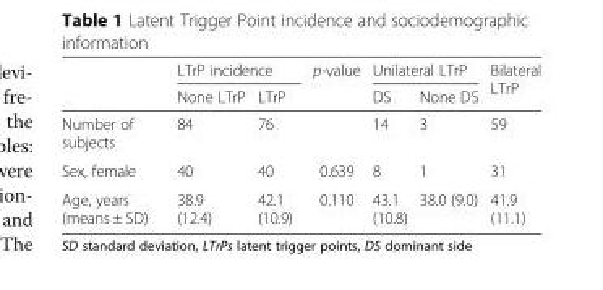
<table><thead><tr><td rowspan="2"></td><td colspan="2">LTrP incidence</td><td rowspan="2">p-value</td><td colspan="2">Unilateral LTrP</td><td rowspan="2">Bilateral LTrP</td></tr><tr><td>None LTrP</td><td>LTrP</td><td>DS</td><td>None DS</td></tr></thead><tbody><tr><td>Number of subjects</td><td>84</td><td>76</td><td></td><td>14</td><td>3</td><td>59</td></tr><tr><td>Sex, female</td><td>40</td><td>40</td><td>0.639</td><td>8</td><td>1</td><td>31</td></tr><tr><td>Age, years (means ± SD)</td><td>38.9 (12.4)</td><td>42.1 (10.9)</td><td>0.110</td><td>43.1 (10.8)</td><td>38.0 (9.0)</td><td>41.9 (11.1)</td></tr></tbody></table>